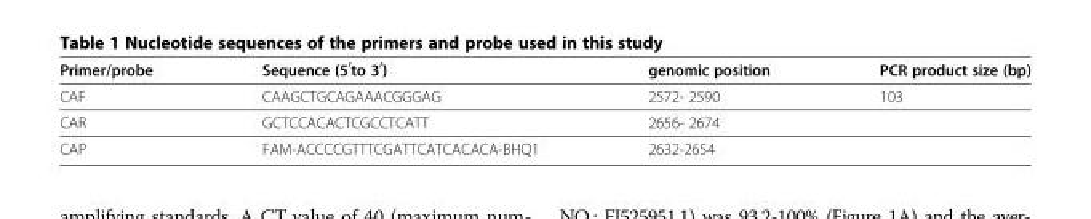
<table><thead><tr><td>Primer/probe</td><td>Sequence (5<sup>′</sup>to 3<sup>′</sup>)</td><td>genomic position</td><td>PCR product size (bp)</td></tr></thead><tbody><tr><td>CAF</td><td>CAAGCTGCAGAAACGGGAG</td><td>2572- 2590</td><td>103</td></tr><tr><td>CAR</td><td>GCTCCACACTCGCCTCATT</td><td>2656- 2674</td><td></td></tr><tr><td>CAP</td><td>FAM-ACCCCGTTTCGATTCATCACACA-BHQ1</td><td>2632-2654</td><td></td></tr></tbody></table>